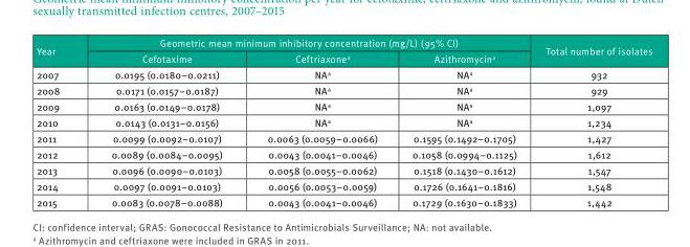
<table><thead><tr><td rowspan="2">Year</td><td colspan="3">Geometric mean minimum inhibitory concentration (mg/L) (95% CI)</td><td rowspan="2">Total number of isolates</td></tr><tr><td>Cefotaxime</td><td>Ceftriaxone<sup>a</sup></td><td>Azithromycin<sup>a</sup></td></tr></thead><tbody><tr><td>2007</td><td>0.0195 (0.0180–0.0211)</td><td>NA<sup>a</sup></td><td>NA<sup>a</sup></td><td>932</td></tr><tr><td>2008</td><td>0.0171 (0.0157–0.0187)</td><td>NA<sup>a</sup></td><td>NA<sup>a</sup></td><td>929</td></tr><tr><td>2009</td><td>0.0163 (0.0149–0.0178)</td><td>NA<sup>a</sup></td><td>NA<sup>a</sup></td><td>1,097</td></tr><tr><td>2010</td><td>0.0143 (0.0131–0.0156)</td><td>NA<sup>a</sup></td><td>NA<sup>a</sup></td><td>1,234</td></tr><tr><td>2011</td><td>0.0099 (0.0092–0.0107)</td><td>0.0063 (0.0059–0.0066)</td><td>0.1595 (0.1492–0.1705)</td><td>1,427</td></tr><tr><td>2012</td><td>0.0089 (0.0084–0.0095)</td><td>0.0043 (0.0041–0.0046)</td><td>0.1058 (0.0994–0.1125)</td><td>1,612</td></tr><tr><td>2013</td><td>0.0096 (0.0090–0.0103)</td><td>0.0058 (0.0055–0.0062)</td><td>0.1518 (0.1430–0.1612)</td><td>1,547</td></tr><tr><td>2014</td><td>0.0097 (0.0091–0.0103)</td><td>0.0056 (0.0053–0.0059)</td><td>0.1726 (0.1641–0.1816)</td><td>1,548</td></tr><tr><td>2015</td><td>0.0083 (0.0078–0.0088)</td><td>0.0043 (0.0041–0.0046)</td><td>0.1729 (0.1630–0.1833)</td><td>1,442</td></tr></tbody></table>